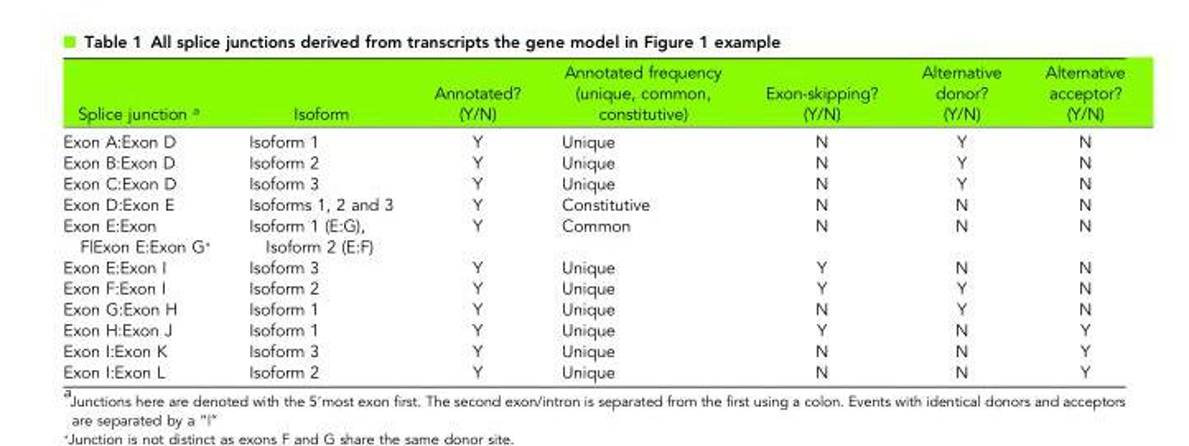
<table><thead><tr><td>Splice junction <sup>a</sup></td><td>Isoform</td><td>Annotated? (Y/N)</td><td>Annotated frequency (unique, common, constitutive)</td><td>Exon-skipping? (Y/N)</td><td>Alternative donor? (Y/N)</td><td>Alternative acceptor? (Y/N)</td></tr></thead><tbody><tr><td>Exon A:Exon D</td><td>Isoform 1</td><td>Y</td><td>Unique</td><td>N</td><td>Y</td><td>N</td></tr><tr><td>Exon B:Exon D</td><td>Isoform 2</td><td>Y</td><td>Unique</td><td>N</td><td>Y</td><td>N</td></tr><tr><td>Exon C:Exon D</td><td>Isoform 3</td><td>Y</td><td>Unique</td><td>N</td><td>Y</td><td>N</td></tr><tr><td>Exon D:Exon E</td><td>Isoforms 1, 2 and 3</td><td>Y</td><td>Constitutive</td><td>N</td><td>N</td><td>N</td></tr><tr><td>Exon E:Exon F|Exon E:Exon G*</td><td>Isoform 1 (E:G), Isoform 2 (E:F)</td><td>Y</td><td>Common</td><td>N</td><td>N</td><td>N</td></tr><tr><td>Exon E:Exon I</td><td>Isoform 3</td><td>Y</td><td>Unique</td><td>Y</td><td>N</td><td>N</td></tr><tr><td>Exon F:Exon I</td><td>Isoform 2</td><td>Y</td><td>Unique</td><td>Y</td><td>Y</td><td>N</td></tr><tr><td>Exon G:Exon H</td><td>Isoform 1</td><td>Y</td><td>Unique</td><td>N</td><td>Y</td><td>N</td></tr><tr><td>Exon H:Exon J</td><td>Isoform 1</td><td>Y</td><td>Unique</td><td>Y</td><td>N</td><td>Y</td></tr><tr><td>Exon I:Exon K</td><td>Isoform 3</td><td>Y</td><td>Unique</td><td>N</td><td>N</td><td>Y</td></tr><tr><td>Exon I:Exon L</td><td>Isoform 2</td><td>Y</td><td>Unique</td><td>N</td><td>N</td><td>Y</td></tr></tbody></table>